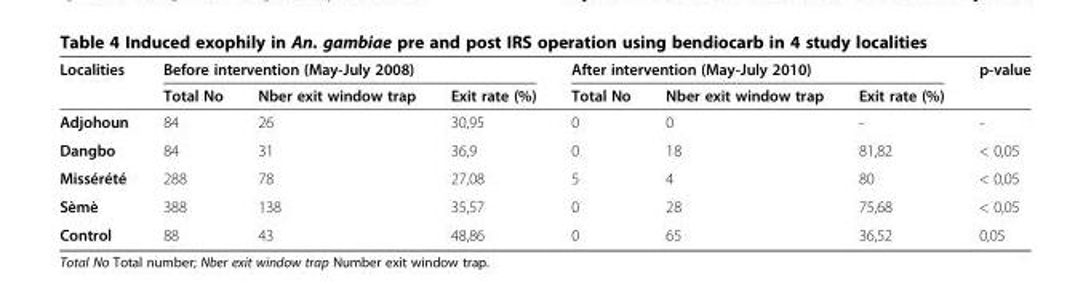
<table><thead><tr><td rowspan="2">Localities</td><td colspan="3">Before intervention (May-July 2008)</td><td colspan="3">After intervention (May-July 2010)</td><td rowspan="2">p-value</td></tr><tr><td>Total No</td><td>Nber exit window trap</td><td>Exit rate (%)</td><td>Total No</td><td>Nber exit window trap</td><td>Exit rate (%)</td></tr></thead><tbody><tr><td>Adjohoun</td><td>84</td><td>26</td><td>30,95</td><td>0</td><td>0</td><td>-</td><td>-</td></tr><tr><td>Dangbo</td><td>84</td><td>31</td><td>36,9</td><td>0</td><td>18</td><td>81,82</td><td>&lt; 0,05</td></tr><tr><td>Missérété</td><td>288</td><td>78</td><td>27,08</td><td>5</td><td>4</td><td>80</td><td>&lt; 0,05</td></tr><tr><td>Sèmè</td><td>388</td><td>138</td><td>35,57</td><td>0</td><td>28</td><td>75,68</td><td>&lt; 0,05</td></tr><tr><td>Control</td><td>88</td><td>43</td><td>48,86</td><td>0</td><td>65</td><td>36,52</td><td>0,05</td></tr></tbody></table>